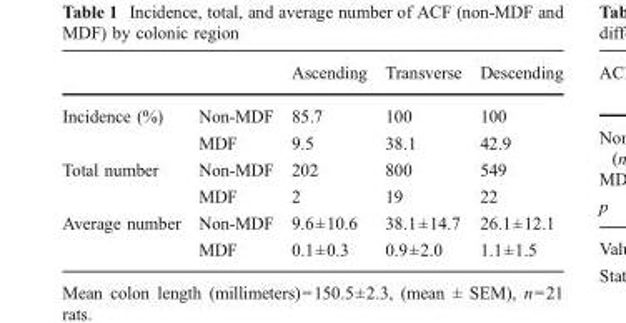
<table><thead><tr><td></td><td></td><td>Ascending</td><td>Transverse</td><td>Descending</td></tr></thead><tbody><tr><td rowspan="2">Incidence (%)</td><td>Non-MDF</td><td>85.7</td><td>100</td><td>100</td></tr><tr><td>MDF</td><td>9.5</td><td>38.1</td><td>42.9</td></tr><tr><td rowspan="2">Total number</td><td>Non-MDF</td><td>202</td><td>800</td><td>549</td></tr><tr><td>MDF</td><td>2</td><td>19</td><td>22</td></tr><tr><td rowspan="2">Average number</td><td>Non-MDF</td><td>9.6±10.6</td><td>38.1±14.7</td><td>26.1±12.1</td></tr><tr><td>MDF</td><td>0.1±0.3</td><td>0.9±2.0</td><td>1.1±1.5</td></tr></tbody></table>